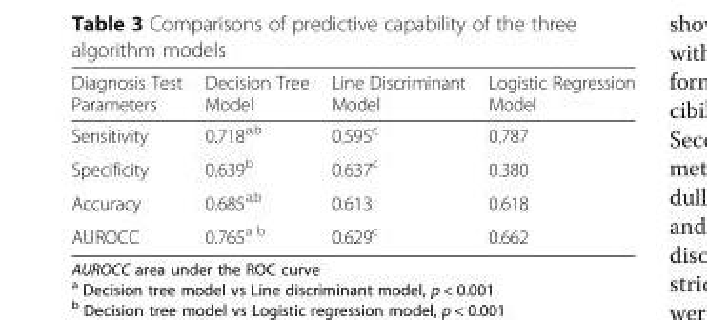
<table><thead><tr><td>Diagnosis Test Parameters</td><td>Decision Tree Model</td><td>Line Discriminant Model</td><td>Logistic Regression Model</td></tr></thead><tbody><tr><td>Sensitivity</td><td>0.718<sup>a,b</sup></td><td>0.595<sup>c</sup></td><td>0.787</td></tr><tr><td>Specificity</td><td>0.639<sup>b</sup></td><td>0.637<sup>c</sup></td><td>0.380</td></tr><tr><td>Accuracy</td><td>0.685<sup>a,b</sup></td><td>0.613</td><td>0.618</td></tr><tr><td>AUROCC</td><td>0.765<sup>a b</sup></td><td>0.629<sup>c</sup></td><td>0.662</td></tr></tbody></table>